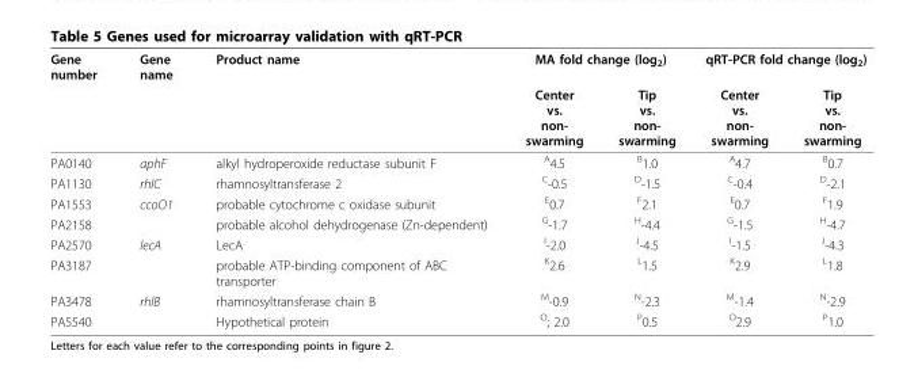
<table><thead><tr><td rowspan="2">Gene number</td><td rowspan="2">Gene name</td><td rowspan="2">Product name</td><td colspan="2">MA fold change (log<sub>2</sub>)</td><td colspan="2">qRT-PCR fold change (log<sub>2</sub>)</td></tr><tr><td>Center vs. non- swarming</td><td>Tip vs. non- swarming</td><td>Center vs. non- swarming</td><td>Tip vs. non- swarming</td></tr></thead><tbody><tr><td>PA0140</td><td>aphF</td><td>alkyl hydroperoxide reductase subunit F</td><td><sup>A</sup>4.5</td><td><sup>B</sup>1.0</td><td><sup>A</sup>4.7</td><td><sup>B</sup>0.7</td></tr><tr><td>PA1130</td><td>rhlC</td><td>rhamnosyltransferase 2</td><td><sup>C</sup>-0.5</td><td><sup>D</sup>-1.5</td><td><sup>C</sup>-0.4</td><td><sup>D</sup>-2.1</td></tr><tr><td>PA1553</td><td>ccoO1</td><td>probable cytochrome c oxidase subunit</td><td><sup>E</sup>0.7</td><td><sup>F</sup>2.1</td><td><sup>E</sup>0.7</td><td><sup>F</sup>1.9</td></tr><tr><td>PA2158</td><td></td><td>probable alcohol dehydrogenase (Zn-dependent)</td><td><sup>G</sup>-1.7</td><td><sup>H</sup>-4.4</td><td><sup>G</sup>-1.5</td><td><sup>H</sup>-4.7</td></tr><tr><td>PA2570</td><td>lecA</td><td>LecA</td><td><sup>I</sup>-2.0</td><td><sup>J</sup>-4.5</td><td><sup>I</sup>-1.5</td><td><sup>J</sup>-4.3</td></tr><tr><td>PA3187</td><td></td><td>probable ATP-binding component of ABC transporter</td><td><sup>K</sup>2.6</td><td><sup>L</sup>1.5</td><td><sup>K</sup>2.9</td><td><sup>L</sup>1.8</td></tr><tr><td>PA3478</td><td>rhlB</td><td>rhamnosyltransferase chain B</td><td><sup>M</sup>-0.9</td><td><sup>N</sup>-2.3</td><td><sup>M</sup>-1.4</td><td><sup>N</sup>-2.9</td></tr><tr><td>PA5540</td><td></td><td>Hypothetical protein</td><td><sup>O</sup>; 2.0</td><td><sup>P</sup>0.5</td><td><sup>O</sup>2.9</td><td><sup>P</sup>1.0</td></tr></tbody></table>